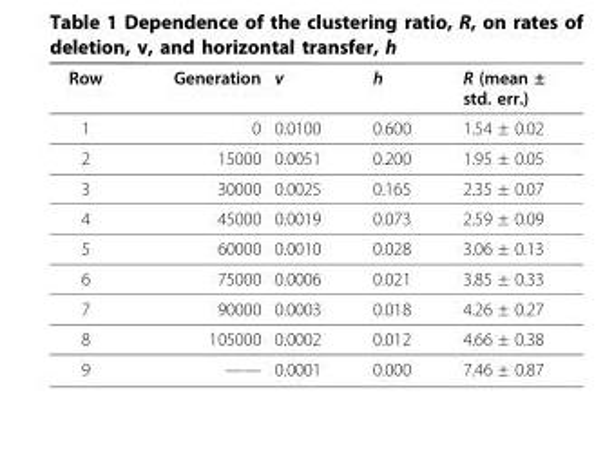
<table><thead><tr><td>Row</td><td>Generation</td><td>v</td><td>h</td><td>R (mean ± std. err.)</td></tr></thead><tbody><tr><td>1</td><td>0</td><td>0.0100</td><td>0.600</td><td>1.54 ± 0.02</td></tr><tr><td>2</td><td>15000</td><td>0.0051</td><td>0.200</td><td>1.95 ± 0.05</td></tr><tr><td>3</td><td>30000</td><td>0.0025</td><td>0.165</td><td>2.35 ± 0.07</td></tr><tr><td>4</td><td>45000</td><td>0.0019</td><td>0.073</td><td>2.59 ± 0.09</td></tr><tr><td>5</td><td>60000</td><td>0.0010</td><td>0.028</td><td>3.06 ± 0.13</td></tr><tr><td>6</td><td>75000</td><td>0.0006</td><td>0.021</td><td>3.85 ± 0.33</td></tr><tr><td>7</td><td>90000</td><td>0.0003</td><td>0.018</td><td>4.26 ± 0.27</td></tr><tr><td>8</td><td>105000</td><td>0.0002</td><td>0.012</td><td>4.66 ± 0.38</td></tr><tr><td>9</td><td>——</td><td>0.0001</td><td>0.000</td><td>7.46 ± 0.87</td></tr></tbody></table>